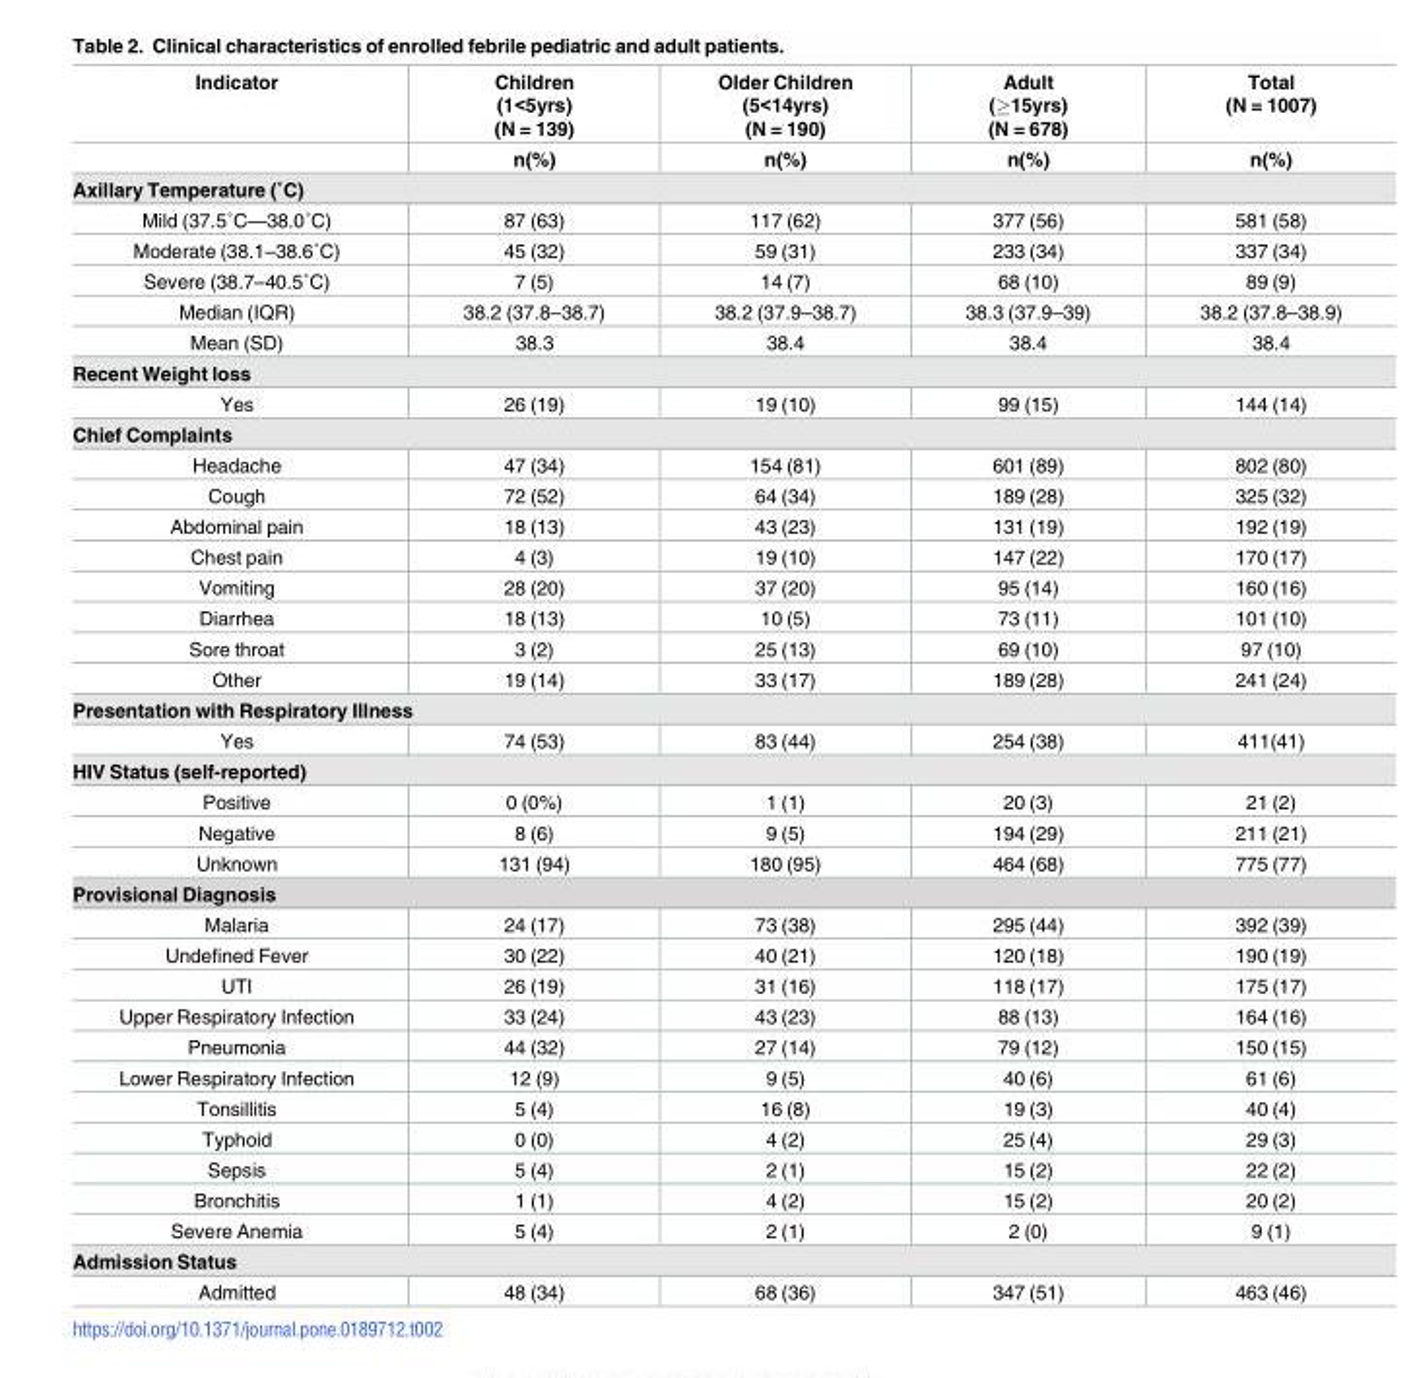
<table><thead><tr><td rowspan="2">Indicator</td><td rowspan="2">Children (1&lt;5yrs) (N = 139) n(%)</td><td rowspan="2">Older Children (5&lt;14yrs) (N = 190) n(%)</td><td rowspan="2">Adult (≥15yrs) (N = 678) n(%)</td><td rowspan="2">Total (N = 1007) n(%)</td></tr><tr></tr></thead><tbody><tr><td colspan="5">Axillary Temperature (˚C)</td></tr><tr><td>Mild (37.5˚C—38.0˚C)</td><td>87 (63)</td><td>117 (62)</td><td>377 (56)</td><td>581 (58)</td></tr><tr><td>Moderate (38.1–38.6˚C)</td><td>45 (32)</td><td>59 (31)</td><td>233 (34)</td><td>337 (34)</td></tr><tr><td>Severe (38.7–40.5˚C)</td><td>7 (5)</td><td>14 (7)</td><td>68 (10)</td><td>89 (9)</td></tr><tr><td>Median (IQR)</td><td>38.2 (37.8–38.7)</td><td>38.2 (37.9–38.7)</td><td>38.3 (37.9–39)</td><td>38.2 (37.8–38.9)</td></tr><tr><td>Mean (SD)</td><td>38.3</td><td>38.4</td><td>38.4</td><td>38.4</td></tr><tr><td colspan="5">Recent Weight loss</td></tr><tr><td>Yes</td><td>26 (19)</td><td>19 (10)</td><td>99 (15)</td><td>144 (14)</td></tr><tr><td colspan="5">Chief Complaints</td></tr><tr><td>Headache</td><td>47 (34)</td><td>154 (81)</td><td>601 (89)</td><td>802 (80)</td></tr><tr><td>Cough</td><td>72 (52)</td><td>64 (34)</td><td>189 (28)</td><td>325 (32)</td></tr><tr><td>Abdominal pain</td><td>18 (13)</td><td>43 (23)</td><td>131 (19)</td><td>192 (19)</td></tr><tr><td>Chest pain</td><td>4 (3)</td><td>19 (10)</td><td>147 (22)</td><td>170 (17)</td></tr><tr><td>Vomiting</td><td>28 (20)</td><td>37 (20)</td><td>95 (14)</td><td>160 (16)</td></tr><tr><td>Diarrhea</td><td>18 (13)</td><td>10 (5)</td><td>73 (11)</td><td>101 (10)</td></tr><tr><td>Sore throat</td><td>3 (2)</td><td>25 (13)</td><td>69 (10)</td><td>97 (10)</td></tr><tr><td>Other</td><td>19 (14)</td><td>33 (17)</td><td>189 (28)</td><td>241 (24)</td></tr><tr><td colspan="5">Presentation with Respiratory Illness</td></tr><tr><td>Yes</td><td>74 (53)</td><td>83 (44)</td><td>254 (38)</td><td>411(41)</td></tr><tr><td colspan="5">HIV Status (self-reported)</td></tr><tr><td>Positive</td><td>0 (0%)</td><td>1 (1)</td><td>20 (3)</td><td>21 (2)</td></tr><tr><td>Negative</td><td>8 (6)</td><td>9 (5)</td><td>194 (29)</td><td>211 (21)</td></tr><tr><td>Unknown</td><td>131 (94)</td><td>180 (95)</td><td>464 (68)</td><td>775 (77)</td></tr><tr><td colspan="5">Provisional Diagnosis</td></tr><tr><td>Malaria</td><td>24 (17)</td><td>73 (38)</td><td>295 (44)</td><td>392 (39)</td></tr><tr><td>Undefined Fever</td><td>30 (22)</td><td>40 (21)</td><td>120 (18)</td><td>190 (19)</td></tr><tr><td>UTI</td><td>26 (19)</td><td>31 (16)</td><td>118 (17)</td><td>175 (17)</td></tr><tr><td>Upper Respiratory Infection</td><td>33 (24)</td><td>43 (23)</td><td>88 (13)</td><td>164 (16)</td></tr><tr><td>Pneumonia</td><td>44 (32)</td><td>27 (14)</td><td>79 (12)</td><td>150 (15)</td></tr><tr><td>Lower Respiratory Infection</td><td>12 (9)</td><td>9 (5)</td><td>40 (6)</td><td>61 (6)</td></tr><tr><td>Tonsillitis</td><td>5 (4)</td><td>16 (8)</td><td>19 (3)</td><td>40 (4)</td></tr><tr><td>Typhoid</td><td>0 (0)</td><td>4 (2)</td><td>25 (4)</td><td>29 (3)</td></tr><tr><td>Sepsis</td><td>5 (4)</td><td>2 (1)</td><td>15 (2)</td><td>22 (2)</td></tr><tr><td>Bronchitis</td><td>1 (1)</td><td>4 (2)</td><td>15 (2)</td><td>20 (2)</td></tr><tr><td>Severe Anemia</td><td>5 (4)</td><td>2 (1)</td><td>2 (0)</td><td>9 (1)</td></tr><tr><td colspan="5">Admission Status</td></tr><tr><td>Admitted</td><td>48 (34)</td><td>68 (36)</td><td>347 (51)</td><td>463 (46)</td></tr></tbody></table>